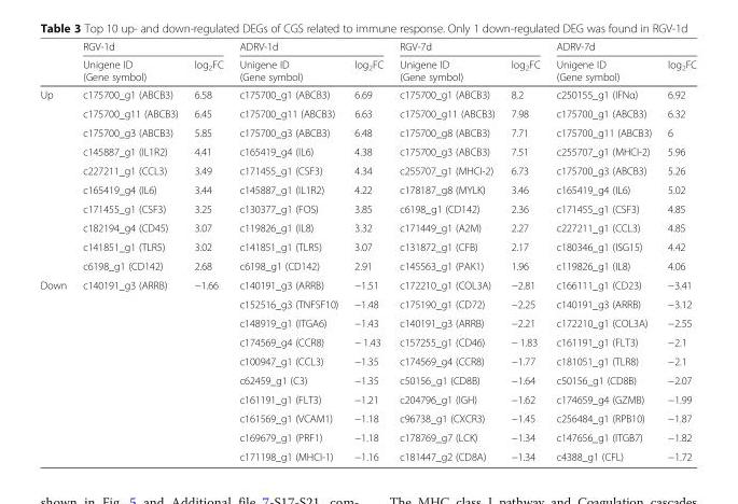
<table><thead><tr><td rowspan="2"></td><td colspan="2">RGV-1d</td><td colspan="2">ADRV-1d</td><td colspan="2">RGV-7d</td><td colspan="2">ADRV-7d</td></tr><tr><td>Unigene ID (Gene symbol)</td><td>log<sub>2</sub>FC</td><td>Unigene ID (Gene symbol)</td><td>log<sub>2</sub>FC</td><td>Unigene ID (Gene symbol)</td><td>log<sub>2</sub>FC</td><td>Unigene ID (Gene symbol)</td><td>log<sub>2</sub>FC</td></tr></thead><tbody><tr><td rowspan="10">Up</td><td>c175700_g1 (ABCB3)</td><td>6.58</td><td>c175700_g1 (ABCB3)</td><td>6.69</td><td>c175700_g1 (ABCB3)</td><td>8.2</td><td>c250155_g1 (IFNα)</td><td>6.92</td></tr><tr><td>c175700_g11 (ABCB3)</td><td>6.45</td><td>c175700_g11 (ABCB3)</td><td>6.63</td><td>c175700_g11 (ABCB3)</td><td>7.98</td><td>c175700_g1 (ABCB3)</td><td>6.32</td></tr><tr><td>c175700_g3 (ABCB3)</td><td>5.85</td><td>c175700_g3 (ABCB3)</td><td>6.48</td><td>c175700_g8 (ABCB3)</td><td>7.71</td><td>c175700_g11 (ABCB3)</td><td>6</td></tr><tr><td>c145887_g1 (IL1R2)</td><td>4.41</td><td>c165419_g4 (IL6)</td><td>4.38</td><td>c175700_g3 (ABCB3)</td><td>7.51</td><td>c255707_g1 (MHCI-2)</td><td>5.96</td></tr><tr><td>c227211_g1 (CCL3)</td><td>3.49</td><td>c171455_g1 (CSF3)</td><td>4.34</td><td>c255707_g1 (MHCI-2)</td><td>6.73</td><td>c175700_g3 (ABCB3)</td><td>5.26</td></tr><tr><td>c165419_g4 (IL6)</td><td>3.44</td><td>c145887_g1 (IL1R2)</td><td>4.22</td><td>c178187_g8 (MYLK)</td><td>3.46</td><td>c165419_g4 (IL6)</td><td>5.02</td></tr><tr><td>c171455_g1 (CSF3)</td><td>3.25</td><td>c130377_g1 (FOS)</td><td>3.85</td><td>c6198_g1 (CD142)</td><td>2.36</td><td>c171455_g1 (CSF3)</td><td>4.85</td></tr><tr><td>c182194_g4 (CD45)</td><td>3.07</td><td>c119826_g1 (IL8)</td><td>3.32</td><td>c171449_g1 (A2M)</td><td>2.27</td><td>c227211_g1 (CCL3)</td><td>4.85</td></tr><tr><td>c141851_g1 (TLR5)</td><td>3.02</td><td>c141851_g1 (TLR5)</td><td>3.07</td><td>c131872_g1 (CFB)</td><td>2.17</td><td>c180346_g1 (ISG15)</td><td>4.42</td></tr><tr><td>c6198_g1 (CD142)</td><td>2.68</td><td>c6198_g1 (CD142)</td><td>2.91</td><td>c145563_g1 (PAK1)</td><td>1.96</td><td>c119826_g1 (IL8)</td><td>4.06</td></tr><tr><td rowspan="10">Down</td><td>c140191_g3 (ARRB)</td><td>−1.66</td><td>c140191_g3 (ARRB)</td><td>−1.51</td><td>c172210_g1 (COL3A)</td><td>−2.81</td><td>c166111_g1 (CD23)</td><td>−3.41</td></tr><tr><td></td><td></td><td>c152516_g3 (TNFSF10)</td><td>−1.48</td><td>c175190_g1 (CD72)</td><td>−2.25</td><td>c140191_g3 (ARRB)</td><td>−3.12</td></tr><tr><td></td><td></td><td>c148919_g1 (ITGA6)</td><td>−1.43</td><td>c140191_g3 (ARRB)</td><td>−2.21</td><td>c172210_g1 (COL3A)</td><td>−2.55</td></tr><tr><td></td><td></td><td>c174569_g4 (CCR8)</td><td>− 1.43</td><td>c157255_g1 (CD46)</td><td>− 1.83</td><td>c161191_g1 (FLT3)</td><td>−2.1</td></tr><tr><td></td><td></td><td>c100947_g1 (CCL3)</td><td>−1.35</td><td>c174569_g4 (CCR8)</td><td>−1.77</td><td>c181051_g1 (TLR8)</td><td>−2.1</td></tr><tr><td></td><td></td><td>c62459_g1 (C3)</td><td>−1.35</td><td>c50156_g1 (CD8B)</td><td>−1.64</td><td>c50156_g1 (CD8B)</td><td>−2.07</td></tr><tr><td></td><td></td><td>c161191_g1 (FLT3)</td><td>−1.21</td><td>c204796_g1 (IGH)</td><td>−1.62</td><td>c174659_g4 (GZMB)</td><td>−1.99</td></tr><tr><td></td><td></td><td>c161569_g1 (VCAM1)</td><td>−1.18</td><td>c96738_g1 (CXCR3)</td><td>−1.45</td><td>c256484_g1 (RPB10)</td><td>−1.87</td></tr><tr><td></td><td></td><td>c169679_g1 (PRF1)</td><td>−1.18</td><td>c178769_g7 (LCK)</td><td>−1.34</td><td>c147656_g1 (ITGB7)</td><td>−1.82</td></tr><tr><td></td><td></td><td>c171198_g1 (MHCI-1)</td><td>−1.16</td><td>c181447_g2 (CD8A)</td><td>−1.34</td><td>c4388_g1 (CFL)</td><td>−1.72</td></tr></tbody></table>